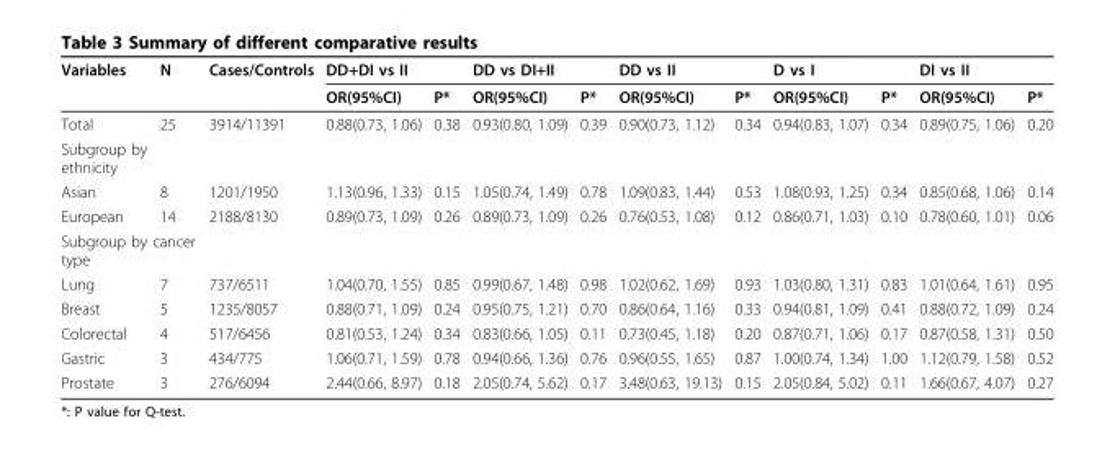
<table><thead><tr><td rowspan="2">Variables</td><td rowspan="2">N</td><td rowspan="2">Cases/Controls</td><td colspan="2">DD+DI vs II</td><td colspan="2">DD vs DI+II</td><td colspan="2">DD vs II</td><td colspan="2">D vs I</td><td colspan="2">DI vs II</td></tr><tr><td>OR(95%CI)</td><td>P*</td><td>OR(95%CI)</td><td>P*</td><td>OR(95%CI)</td><td>P*</td><td>OR(95%CI)</td><td>P*</td><td>OR(95%CI)</td><td>P*</td></tr></thead><tbody><tr><td>Total</td><td>25</td><td>3914/11391</td><td>0.88(0.73, 1.06)</td><td>0.38</td><td>0.93(0.80, 1.09)</td><td>0.39</td><td>0.90(0.73, 1.12)</td><td>0.34</td><td>0.94(0.83, 1.07)</td><td>0.34</td><td>0.89(0.75, 1.06)</td><td>0.20</td></tr><tr><td colspan="13">Subgroup by ethnicity</td></tr><tr><td>Asian</td><td>8</td><td>1201/1950</td><td>1.13(0.96, 1.33)</td><td>0.15</td><td>1.05(0.74, 1.49)</td><td>0.78</td><td>1.09(0.83, 1.44)</td><td>0.53</td><td>1.08(0.93, 1.25)</td><td>0.34</td><td>0.85(0.68, 1.06)</td><td>0.14</td></tr><tr><td>European</td><td>14</td><td>2188/8130</td><td>0.89(0.73, 1.09)</td><td>0.26</td><td>0.89(0.73, 1.09)</td><td>0.26</td><td>0.76(0.53, 1.08)</td><td>0.12</td><td>0.86(0.71, 1.03)</td><td>0.10</td><td>0.78(0.60, 1.01)</td><td>0.06</td></tr><tr><td colspan="13">Subgroup by cancer type</td></tr><tr><td>Lung</td><td>7</td><td>737/6511</td><td>1.04(0.70, 1.55)</td><td>0.85</td><td>0.99(0.67, 1.48)</td><td>0.98</td><td>1.02(0.62, 1.69)</td><td>0.93</td><td>1.03(0.80, 1.31)</td><td>0.83</td><td>1.01(0.64, 1.61)</td><td>0.95</td></tr><tr><td>Breast</td><td>5</td><td>1235/8057</td><td>0.88(0.71, 1.09)</td><td>0.24</td><td>0.95(0.75, 1.21)</td><td>0.70</td><td>0.86(0.64, 1.16)</td><td>0.33</td><td>0.94(0.81, 1.09)</td><td>0.41</td><td>0.88(0.72, 1.09)</td><td>0.24</td></tr><tr><td>Colorectal</td><td>4</td><td>517/6456</td><td>0.81(0.53, 1.24)</td><td>0.34</td><td>0.83(0.66, 1.05)</td><td>0.11</td><td>0.73(0.45, 1.18)</td><td>0.20</td><td>0.87(0.71, 1.06)</td><td>0.17</td><td>0.87(0.58, 1.31)</td><td>0.50</td></tr><tr><td>Gastric</td><td>3</td><td>434/775</td><td>1.06(0.71, 1.59)</td><td>0.78</td><td>0.94(0.66, 1.36)</td><td>0.76</td><td>0.96(0.55, 1.65)</td><td>0.87</td><td>1.00(0.74, 1.34)</td><td>1.00</td><td>1.12(0.79, 1.58)</td><td>0.52</td></tr><tr><td>Prostate</td><td>3</td><td>276/6094</td><td>2.44(0.66, 8.97)</td><td>0.18</td><td>2.05(0.74, 5.62)</td><td>0.17</td><td>3.48(0.63, 19.13)</td><td>0.15</td><td>2.05(0.84, 5.02)</td><td>0.11</td><td>1.66(0.67, 4.07)</td><td>0.27</td></tr></tbody></table>